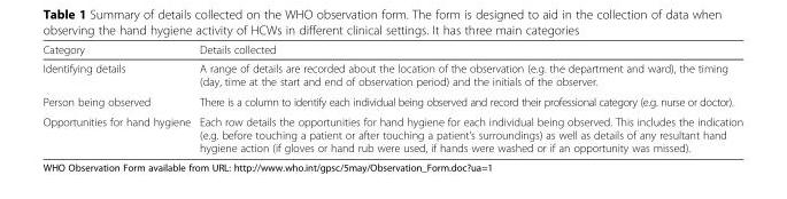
<table><thead><tr><td>Category</td><td>Details collected</td></tr></thead><tbody><tr><td>Identifying details</td><td>A range of details are recorded about the location of the observation (e.g. the department and ward), the timing (day, time at the start and end of observation period) and the initials of the observer.</td></tr><tr><td>Person being observed</td><td>There is a column to identify each individual being observed and record their professional category (e.g. nurse or doctor).</td></tr><tr><td>Opportunities for hand hygiene</td><td>Each row details the opportunities for hand hygiene for each individual being observed. This includes the indication (e.g. before touching a patient or after touching a patient’s surroundings) as well as details of any resultant hand hygiene action (if gloves or hand rub were used, if hands were washed or if an opportunity was missed).</td></tr></tbody></table>